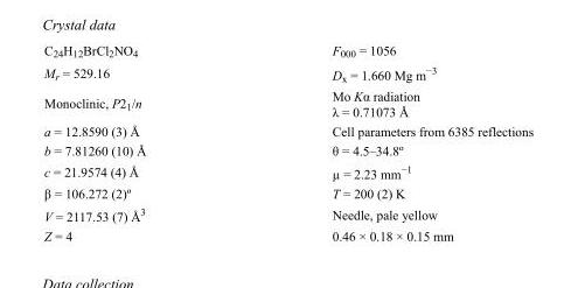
<table><tbody><tr><td>C<sub>24</sub>H<sub>12</sub>BrCl<sub>2</sub>NO<sub>4</sub></td><td>F000 = 1056</td></tr><tr><td>M<sub>r</sub> = 529.16</td><td>D<sub>x</sub> = 1.660 Mg m<sup>−3</sup></td></tr><tr><td>Monoclinic, P2<sub>1</sub>/n</td><td>Mo Kα radiation λ = 0.71073 Å</td></tr><tr><td>a = 12.8590 (3) Å</td><td>Cell parameters from 6385 reflections</td></tr><tr><td>b = 7.81260 (10) Å</td><td>θ = 4.5–34.8º</td></tr><tr><td>c = 21.9574 (4) Å</td><td>µ = 2.23 mm<sup>−1</sup></td></tr><tr><td>β = 106.272 (2)º</td><td>T = 200 (2) K</td></tr><tr><td>V = 2117.53 (7) Å<sup>3</sup></td><td>Needle, pale yellow</td></tr><tr><td>Z = 4</td><td>0.46 × 0.18 × 0.15 mm</td></tr></tbody></table>